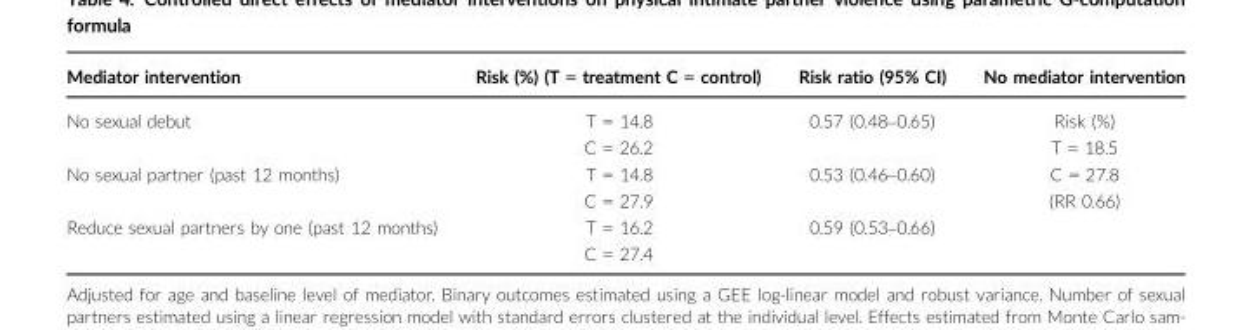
<table><thead><tr><td>Mediator intervention</td><td>Risk (%) (T = treatment C = control)</td><td>Risk ratio (95% CI)</td><td>No mediator intervention</td></tr></thead><tbody><tr><td rowspan="2">No sexual debut</td><td>T = 14.8</td><td rowspan="2">0.57 (0.48–0.65)</td><td rowspan="6">Risk (%) T = 18.5 C = 27.8 (RR 0.66)</td></tr><tr><td>C = 26.2</td></tr><tr><td rowspan="2">No sexual partner (past 12 months)</td><td>T = 14.8</td><td rowspan="2">0.53 (0.46–0.60)</td></tr><tr><td>C = 27.9</td></tr><tr><td rowspan="2">Reduce sexual partners by one (past 12 months)</td><td>T = 16.2</td><td rowspan="2">0.59 (0.53–0.66)</td></tr><tr><td>C = 27.4</td></tr></tbody></table>